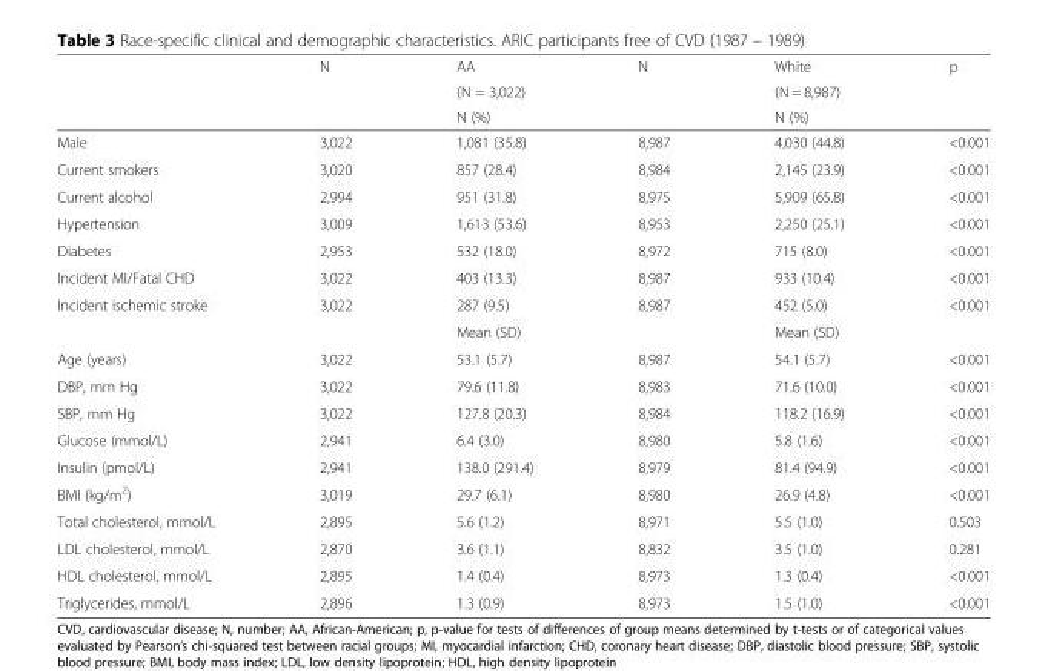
<table><thead><tr><td rowspan="3"></td><td rowspan="3">N</td><td rowspan="3">AA (N = 3,022) N (%)</td><td rowspan="3">N</td><td rowspan="3">White (N = 8,987) N (%)</td><td rowspan="3">p</td></tr><tr></tr><tr></tr></thead><tbody><tr><td>Male</td><td>3,022</td><td>1,081 (35.8)</td><td>8,987</td><td>4,030 (44.8)</td><td>&lt;0.001</td></tr><tr><td>Current smokers</td><td>3,020</td><td>857 (28.4)</td><td>8,984</td><td>2,145 (23.9)</td><td>&lt;0.001</td></tr><tr><td>Current alcohol</td><td>2,994</td><td>951 (31.8)</td><td>8,975</td><td>5,909 (65.8)</td><td>&lt;0.001</td></tr><tr><td>Hypertension</td><td>3,009</td><td>1,613 (53.6)</td><td>8,953</td><td>2,250 (25.1)</td><td>&lt;0.001</td></tr><tr><td>Diabetes</td><td>2,953</td><td>532 (18.0)</td><td>8,972</td><td>715 (8.0)</td><td>&lt;0.001</td></tr><tr><td>Incident MI/Fatal CHD</td><td>3,022</td><td>403 (13.3)</td><td>8,987</td><td>933 (10.4)</td><td>&lt;0.001</td></tr><tr><td rowspan="2">Incident ischemic stroke</td><td>3,022</td><td>287 (9.5)</td><td>8,987</td><td>452 (5.0)</td><td>&lt;0.001</td></tr><tr><td></td><td>Mean (SD)</td><td></td><td>Mean (SD)</td><td></td></tr><tr><td>Age (years)</td><td>3,022</td><td>53.1 (5.7)</td><td>8,987</td><td>54.1 (5.7)</td><td>&lt;0.001</td></tr><tr><td>DBP, mm Hg</td><td>3,022</td><td>79.6 (11.8)</td><td>8,983</td><td>71.6 (10.0)</td><td>&lt;0.001</td></tr><tr><td>SBP, mm Hg</td><td>3,022</td><td>127.8 (20.3)</td><td>8,984</td><td>118.2 (16.9)</td><td>&lt;0.001</td></tr><tr><td>Glucose (mmol/L)</td><td>2,941</td><td>6.4 (3.0)</td><td>8,980</td><td>5.8 (1.6)</td><td>&lt;0.001</td></tr><tr><td>Insulin (pmol/L)</td><td>2,941</td><td>138.0 (291.4)</td><td>8,979</td><td>81.4 (94.9)</td><td>&lt;0.001</td></tr><tr><td>BMI (kg/m<sup>2</sup>)</td><td>3,019</td><td>29.7 (6.1)</td><td>8,980</td><td>26.9 (4.8)</td><td>&lt;0.001</td></tr><tr><td>Total cholesterol, mmol/L</td><td>2,895</td><td>5.6 (1.2)</td><td>8,971</td><td>5.5 (1.0)</td><td>0.503</td></tr><tr><td>LDL cholesterol, mmol/L</td><td>2,870</td><td>3.6 (1.1)</td><td>8,832</td><td>3.5 (1.0)</td><td>0.281</td></tr><tr><td>HDL cholesterol, mmol/L</td><td>2,895</td><td>1.4 (0.4)</td><td>8,973</td><td>1.3 (0.4)</td><td>&lt;0.001</td></tr><tr><td>Triglycerides, mmol/L</td><td>2,896</td><td>1.3 (0.9)</td><td>8,973</td><td>1.5 (1.0)</td><td>&lt;0.001</td></tr></tbody></table>